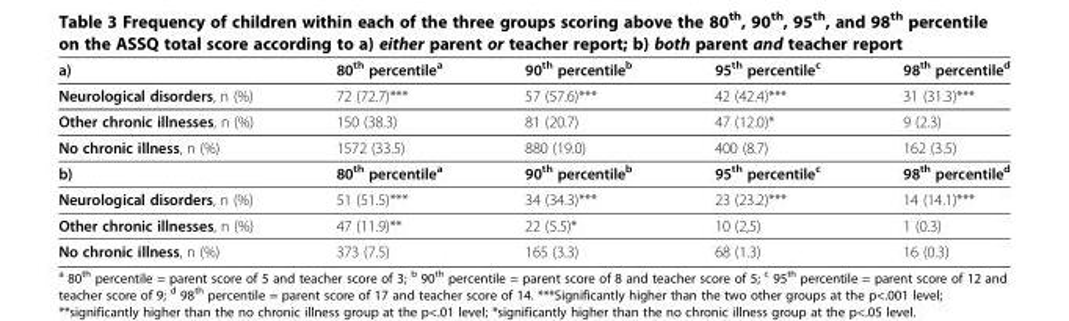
<table><thead><tr><td>a)</td><td>80<sup>th</sup> percentile<sup>a</sup></td><td>90<sup>th</sup> percentile<sup>b</sup></td><td>95<sup>th</sup> percentile<sup>c</sup></td><td>98<sup>th</sup> percentile<sup>d</sup></td></tr></thead><tbody><tr><td>Neurological disorders, n (%)</td><td>72 (72.7)***</td><td>57 (57.6)***</td><td>42 (42.4)***</td><td>31 (31.3)***</td></tr><tr><td>Other chronic illnesses, n (%)</td><td>150 (38.3)</td><td>81 (20.7)</td><td>47 (12.0)*</td><td>9 (2.3)</td></tr><tr><td>No chronic illness, n (%)</td><td>1572 (33.5)</td><td>880 (19.0)</td><td>400 (8.7)</td><td>162 (3.5)</td></tr><tr><td>b)</td><td>80<sup>th</sup> percentile<sup>a</sup></td><td>90<sup>th</sup> percentile<sup>b</sup></td><td>95<sup>th</sup> percentile<sup>c</sup></td><td>98<sup>th</sup> percentile<sup>d</sup></td></tr><tr><td>Neurological disorders, n (%)</td><td>51 (51.5)***</td><td>34 (34.3)***</td><td>23 (23.2)***</td><td>14 (14.1)***</td></tr><tr><td>Other chronic illnesses, n (%)</td><td>47 (11.9)**</td><td>22 (5.5)*</td><td>10 (2,5)</td><td>1 (0.3)</td></tr><tr><td>No chronic illness, n (%)</td><td>373 (7.5)</td><td>165 (3.3)</td><td>68 (1.3)</td><td>16 (0.3)</td></tr></tbody></table>